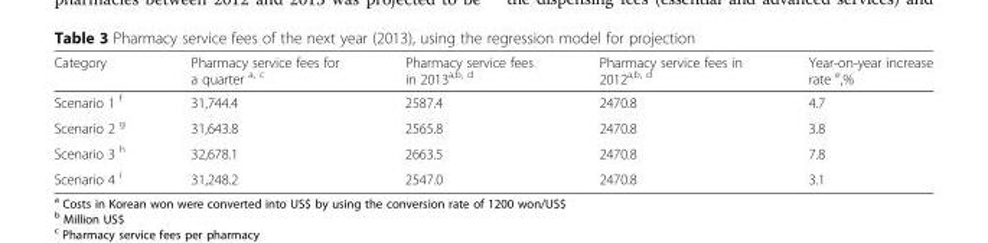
<table><thead><tr><td>Category</td><td>Pharmacy service fees for a quarter <sup>a, c</sup></td><td>Pharmacy service fees in 2013<sup>a,b, d</sup></td><td>Pharmacy service fees in 2012<sup>a,b, d</sup></td><td>Year-on-year increase rate <sup>e</sup>,%</td></tr></thead><tbody><tr><td>Scenario 1 <sup>f</sup></td><td>31,744.4</td><td>2587.4</td><td>2470.8</td><td>4.7</td></tr><tr><td>Scenario 2 <sup>g</sup></td><td>31,643.8</td><td>2565.8</td><td>2470.8</td><td>3.8</td></tr><tr><td>Scenario 3 <sup>h</sup></td><td>32,678.1</td><td>2663.5</td><td>2470.8</td><td>7.8</td></tr><tr><td>Scenario 4 <sup>i</sup></td><td>31,248.2</td><td>2547.0</td><td>2470.8</td><td>3.1</td></tr></tbody></table>